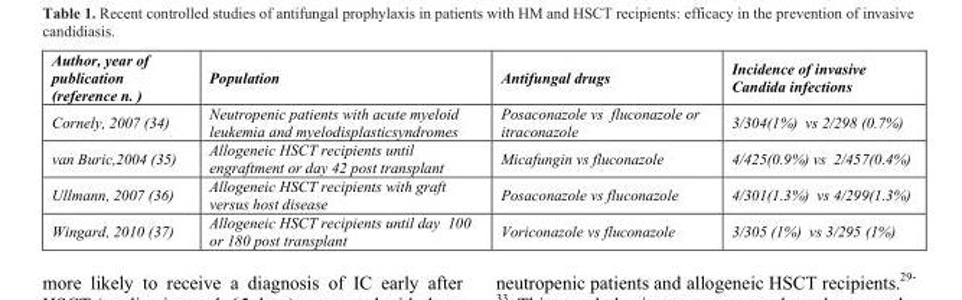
<table><thead><tr><td>Author, year of publication (reference n. )</td><td>Population</td><td>Antifungal drugs</td><td>Incidence of invasive Candida infections</td></tr></thead><tbody><tr><td>Cornely, 2007 (34)</td><td>Neutropenic patients with acute myeloid leukemia and myelodisplasticsyndromes</td><td>Posaconazole vs fluconazole or itraconazole</td><td>3/304(1%) vs 2/298 (0.7%)</td></tr><tr><td>van Buric,2004 (35)</td><td>Allogeneic HSCT recipients until engraftment or day 42 post transplant</td><td>Micafungin vs fluconazole</td><td>4/425(0.9%) vs 2/457(0.4%)</td></tr><tr><td>Ullmann, 2007 (36)</td><td>Allogeneic HSCT recipients with graft versus host disease</td><td>Posaconazole vs fluconazole</td><td>4/301(1.3%) vs 4/299(1.3%)</td></tr><tr><td>Wingard, 2010 (37)</td><td>Allogeneic HSCT recipients until day 100 or 180 post transplant</td><td>Voriconazole vs fluconazole</td><td>3/305 (1%) vs 3/295 (1%)</td></tr></tbody></table>